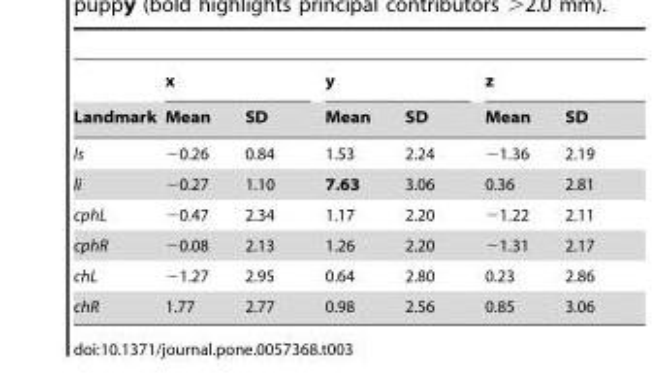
<table><thead><tr><td rowspan="2">Landmark</td><td colspan="2">x</td><td colspan="2">y</td><td colspan="2">z</td></tr><tr><td>Mean</td><td>SD</td><td>Mean</td><td>SD</td><td>Mean</td><td>SD</td></tr></thead><tbody><tr><td>ls</td><td>−0.26</td><td>0.84</td><td>1.53</td><td>2.24</td><td>−1.36</td><td>2.19</td></tr><tr><td>li</td><td>−0.27</td><td>1.10</td><td>7.63</td><td>3.06</td><td>0.36</td><td>2.81</td></tr><tr><td>cphL</td><td>−0.47</td><td>2.34</td><td>1.17</td><td>2.20</td><td>−1.22</td><td>2.11</td></tr><tr><td>cphR</td><td>−0.08</td><td>2.13</td><td>1.26</td><td>2.20</td><td>−1.31</td><td>2.17</td></tr><tr><td>chL</td><td>−1.27</td><td>2.95</td><td>0.64</td><td>2.80</td><td>0.23</td><td>2.86</td></tr><tr><td>chR</td><td>1.77</td><td>2.77</td><td>0.98</td><td>2.56</td><td>0.85</td><td>3.06</td></tr></tbody></table>